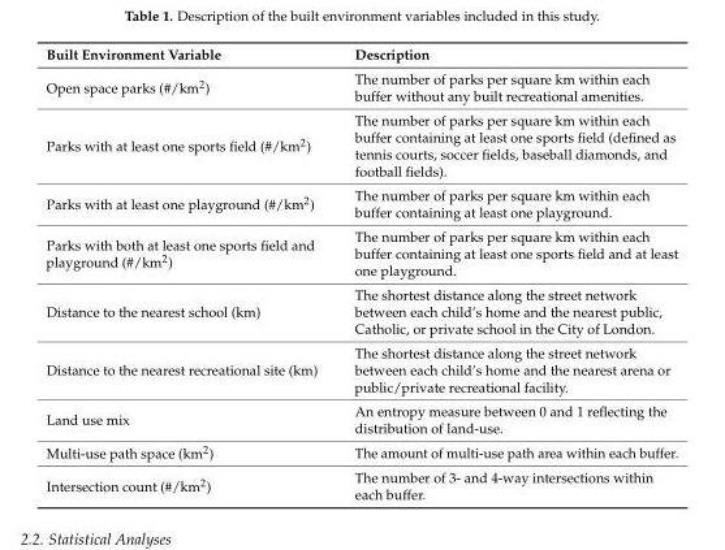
<table><thead><tr><td>Built Environment Variable</td><td>Description</td></tr></thead><tbody><tr><td>Open space parks (#/km<sup>2</sup>)</td><td>The number of parks per square km within each buffer without any built recreational amenities.</td></tr><tr><td>Parks with at least one sports field (#/km<sup>2</sup>)</td><td>The number of parks per square km within each buffer containing at least one sports field (defined as tennis courts, soccer fields, baseball diamonds, and football fields).</td></tr><tr><td>Parks with at least one playground (#/km<sup>2</sup>)</td><td>The number of parks per square km within each buffer containing at least one playground.</td></tr><tr><td>Parks with both at least one sports field and playground (#/km<sup>2</sup>)</td><td>The number of parks per square km within each buffer containing at least one sports field and at least one playground.</td></tr><tr><td>Distance to the nearest school (km)</td><td>The shortest distance along the street network between each child’s home and the nearest public, Catholic, or private school in the City of London.</td></tr><tr><td>Distance to the nearest recreational site (km)</td><td>The shortest distance along the street network between each child’s home and the nearest arena or public/private recreational facility.</td></tr><tr><td>Land use mix</td><td>An entropy measure between 0 and 1 reflecting the distribution of land-use.</td></tr><tr><td>Multi-use path space (km<sup>2</sup>)</td><td>The amount of multi-use path area within each buffer.</td></tr><tr><td>Intersection count (#/km<sup>2</sup>)</td><td>The number of 3- and 4-way intersections within each buffer.</td></tr></tbody></table>